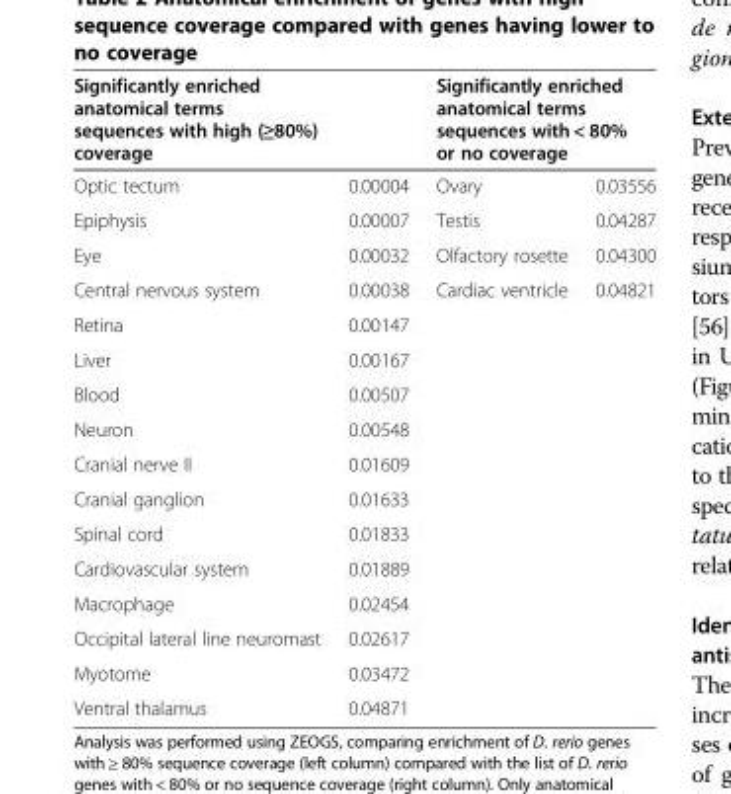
<table><thead><tr><td colspan="2">Significantly enriched anatomical terms sequences with high (≥80%) coverage</td><td colspan="2">Significantly enriched anatomical terms sequences with &lt; 80% or no coverage</td></tr><tr><td>Optic tectum</td><td>0.00004</td><td>Ovary</td><td>0.03556</td></tr></thead><tbody><tr><td>Epiphysis</td><td>0.00007</td><td>Testis</td><td>0.04287</td></tr><tr><td>Eye</td><td>0.00032</td><td>Olfactory rosette</td><td>0.04300</td></tr><tr><td>Central nervous system</td><td>0.00038</td><td>Cardiac ventricle</td><td>0.04821</td></tr><tr><td>Retina</td><td>0.00147</td><td></td><td></td></tr><tr><td>Liver</td><td>0.00167</td><td></td><td></td></tr><tr><td>Blood</td><td>0.00507</td><td></td><td></td></tr><tr><td>Neuron</td><td>0.00548</td><td></td><td></td></tr><tr><td>Cranial nerve II</td><td>0.01609</td><td></td><td></td></tr><tr><td>Cranial ganglion</td><td>0.01633</td><td></td><td></td></tr><tr><td>Spinal cord</td><td>0.01833</td><td></td><td></td></tr><tr><td>Cardiovascular system</td><td>0.01889</td><td></td><td></td></tr><tr><td>Macrophage</td><td>0.02454</td><td></td><td></td></tr><tr><td>Occipital lateral line neuromast</td><td>0.02617</td><td></td><td></td></tr><tr><td>Myotome</td><td>0.03472</td><td></td><td></td></tr><tr><td>Ventral thalamus</td><td>0.04871</td><td></td><td></td></tr></tbody></table>